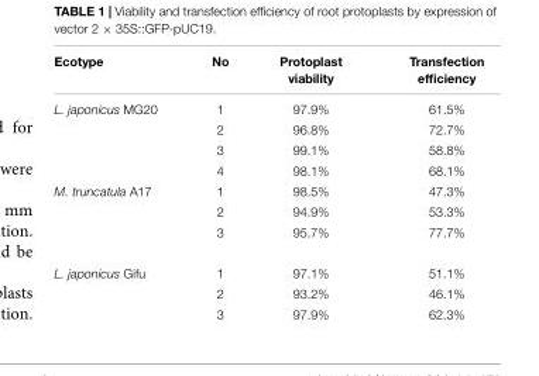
<table><thead><tr><td>Ecotype</td><td>No</td><td>Protoplast viability</td><td>Transfection efficiency</td></tr></thead><tbody><tr><td rowspan="4">L. japonicus MG20</td><td>1</td><td>97.9%</td><td>61.5%</td></tr><tr><td>2</td><td>96.8%</td><td>72.7%</td></tr><tr><td>3</td><td>99.1%</td><td>58.8%</td></tr><tr><td>4</td><td>98.1%</td><td>68.1%</td></tr><tr><td rowspan="3">M. truncatula A17</td><td>1</td><td>98.5%</td><td>47.3%</td></tr><tr><td>2</td><td>94.9%</td><td>53.3%</td></tr><tr><td>3</td><td>95.7%</td><td>77.7%</td></tr><tr><td rowspan="3">L. japonicus Gifu</td><td>1</td><td>97.1%</td><td>51.1%</td></tr><tr><td>2</td><td>93.2%</td><td>46.1%</td></tr><tr><td>3</td><td>97.9%</td><td>62.3%</td></tr></tbody></table>